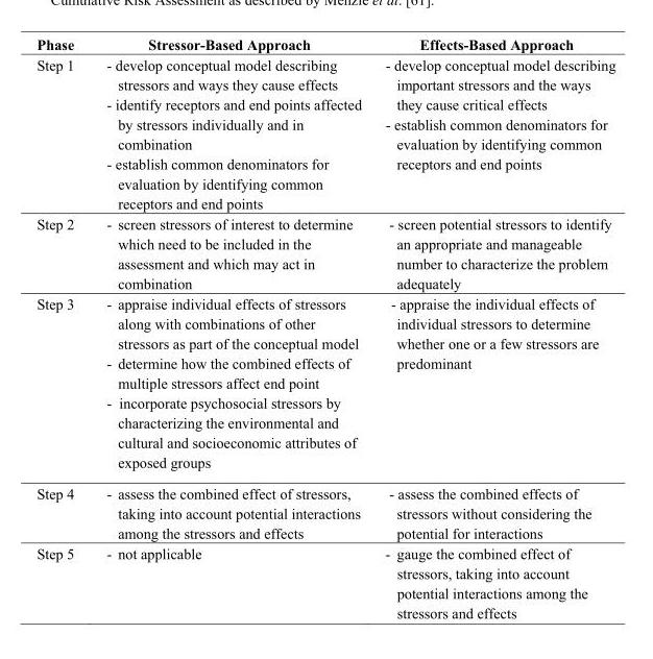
<table><thead><tr><td>Phase</td><td>Stressor-Based Approach</td><td>Effects-Based Approach</td></tr></thead><tbody><tr><td>Step 1</td><td>- develop conceptual model describing stressors and ways they cause effects - identify receptors and end points affected by stressors individually and in combination - establish common denominators for evaluation by identifying common receptors and end points</td><td>- develop conceptual model describing important stressors and the ways they cause critical effects - establish common denominators for evaluation by identifying common receptors and end points</td></tr><tr><td>Step 2</td><td>- screen stressors of interest to determine which need to be included in the assessment and which may act in combination</td><td>- screen potential stressors to identify an appropriate and manageable number to characterize the problem adequately</td></tr><tr><td>Step 3</td><td>- appraise individual effects of stressors along with combinations of other stressors as part of the conceptual model - determine how the combined effects of multiple stressors affect end point - incorporate psychosocial stressors by characterizing the environmental and cultural and socioeconomic attributes of exposed groups</td><td>- appraise the individual effects of individual stressors to determine whether one or a few stressors are predominant</td></tr><tr><td>Step 4</td><td>- assess the combined effect of stressors, taking into account potential interactions among the stressors and effects</td><td>- assess the combined effects of stressors without considering the potential for interactions</td></tr><tr><td>Step 5</td><td>- not applicable</td><td>- gauge the combined effect of stressors, taking into account potential interactions among the stressors and effects</td></tr></tbody></table>